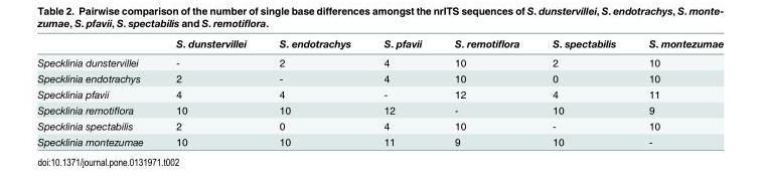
<table><thead><tr><td></td><td>S. dunstervillei</td><td>S. endotrachys</td><td>S. pfavii</td><td>S. remotiflora</td><td>S. spectabilis</td><td>S. montezumae</td></tr></thead><tbody><tr><td>Specklinia dunstervillei</td><td>-</td><td>2</td><td>4</td><td>10</td><td>2</td><td>10</td></tr><tr><td>Specklinia endotrachys</td><td>2</td><td>-</td><td>4</td><td>10</td><td>0</td><td>10</td></tr><tr><td>Specklinia pfavii</td><td>4</td><td>4</td><td>-</td><td>12</td><td>4</td><td>11</td></tr><tr><td>Specklinia remotiflora</td><td>10</td><td>10</td><td>12</td><td>-</td><td>10</td><td>9</td></tr><tr><td>Specklinia spectabilis</td><td>2</td><td>0</td><td>4</td><td>10</td><td>-</td><td>10</td></tr><tr><td>Specklinia montezumae</td><td>10</td><td>10</td><td>11</td><td>9</td><td>10</td><td>-</td></tr></tbody></table>